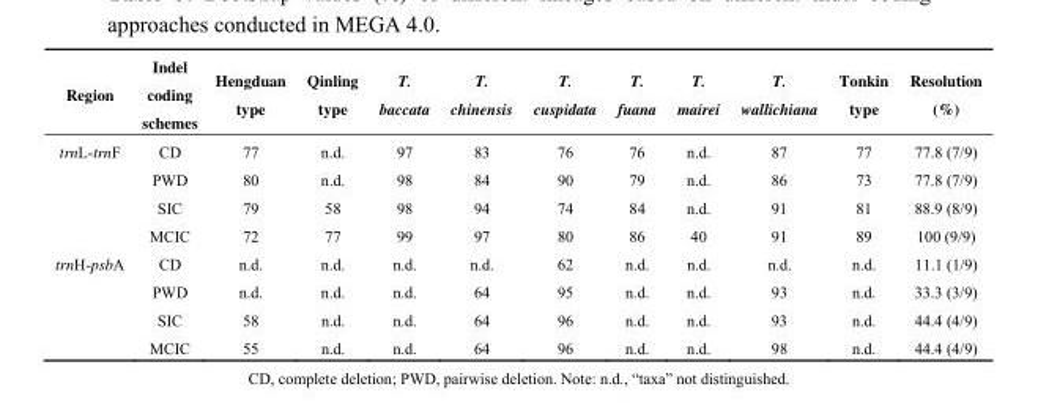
<table><thead><tr><td>Region</td><td>Indel coding schemes</td><td>Hengduan type</td><td>Qinling type</td><td>T. baccata</td><td>T. chinensis</td><td>T. cuspidata</td><td>T. fuana</td><td>T. mairei</td><td>T. wallichiana</td><td>Tonkin type</td><td>Resolution (%)</td></tr></thead><tbody><tr><td rowspan="4">trnL-trnF</td><td>CD</td><td>77</td><td>n.d.</td><td>97</td><td>83</td><td>76</td><td>76</td><td>n.d.</td><td>87</td><td>77</td><td>77.8 (7/9)</td></tr><tr><td>PWD</td><td>80</td><td>n.d.</td><td>98</td><td>84</td><td>90</td><td>79</td><td>n.d.</td><td>86</td><td>73</td><td>77.8 (7/9)</td></tr><tr><td>SIC</td><td>79</td><td>58</td><td>98</td><td>94</td><td>74</td><td>84</td><td>n.d.</td><td>91</td><td>81</td><td>88.9 (8/9)</td></tr><tr><td>MCIC</td><td>72</td><td>77</td><td>99</td><td>97</td><td>80</td><td>86</td><td>40</td><td>91</td><td>89</td><td>100 (9/9)</td></tr><tr><td rowspan="4">trnH-psbA</td><td>CD</td><td>n.d.</td><td>n.d.</td><td>n.d.</td><td>n.d.</td><td>62</td><td>n.d.</td><td>n.d.</td><td>n.d.</td><td>n.d.</td><td>11.1 (1/9)</td></tr><tr><td>PWD</td><td>n.d.</td><td>n.d.</td><td>n.d.</td><td>64</td><td>95</td><td>n.d.</td><td>n.d.</td><td>93</td><td>n.d.</td><td>33.3 (3/9)</td></tr><tr><td>SIC</td><td>58</td><td>n.d.</td><td>n.d.</td><td>64</td><td>96</td><td>n.d.</td><td>n.d.</td><td>93</td><td>n.d.</td><td>44.4 (4/9)</td></tr><tr><td>MCIC</td><td>55</td><td>n.d.</td><td>n.d.</td><td>64</td><td>96</td><td>n.d.</td><td>n.d.</td><td>98</td><td>n.d.</td><td>44.4 (4/9)</td></tr></tbody></table>